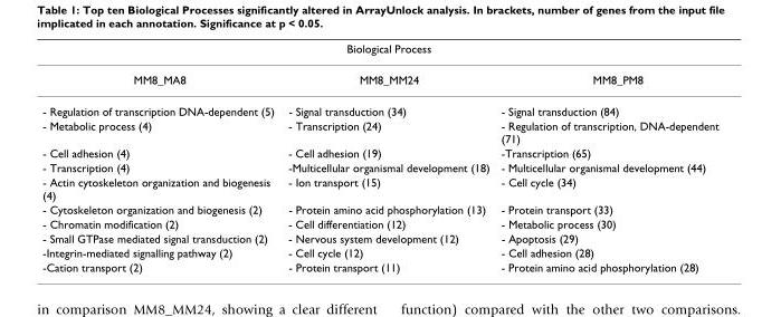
<table><thead><tr><td colspan="3">Biological Process</td></tr><tr><td>MM8_MA8</td><td>MM8_MM24</td><td>MM8_PM8</td></tr></thead><tbody><tr><td>- Regulation of transcription DNA-dependent (5)</td><td>- Signal transduction (34)</td><td>- Signal transduction (84)</td></tr><tr><td>- Metabolic process (4)</td><td>- Transcription (24)</td><td>- Regulation of transcription, DNA-dependent (71)</td></tr><tr><td>- Cell adhesion (4)</td><td>- Cell adhesion (19)</td><td>-Transcription (65)</td></tr><tr><td>- Transcription (4)</td><td>-Multicellular organismal development (18)</td><td>- Multicellular organismal development (44)</td></tr><tr><td>- Actin cytoskeleton organization and biogenesis (4)</td><td>- Ion transport (15)</td><td>- Cell cycle (34)</td></tr><tr><td>- Cytoskeleton organization and biogenesis (2)</td><td>- Protein amino acid phosphorylation (13)</td><td>- Protein transport (33)</td></tr><tr><td>- Chromatin modification (2)</td><td>- Cell differentiation (12)</td><td>- Metabolic process (30)</td></tr><tr><td>- Small GTPase mediated signal transduction (2)</td><td>- Nervous system development (12)</td><td>- Apoptosis (29)</td></tr><tr><td>-Integrin-mediated signalling pathway (2)</td><td>- Cell cycle (12)</td><td>- Cell adhesion (28)</td></tr><tr><td>-Cation transport (2)</td><td>- Protein transport (11)</td><td>- Protein amino acid phosphorylation (28)</td></tr></tbody></table>